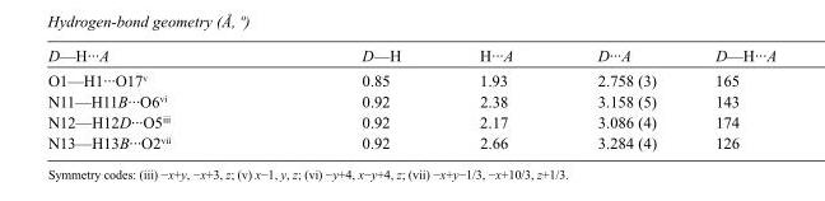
<table><tbody><tr><td>D—H···A</td><td>D—H</td><td>H···A</td><td>D···A</td><td>D—H···A</td></tr><tr><td>O1—H1···O17<sup>v</sup></td><td>0.85</td><td>1.93</td><td>2.758 (3)</td><td>165</td></tr><tr><td>N11—H11B···O6<sup>vi</sup></td><td>0.92</td><td>2.38</td><td>3.158 (5)</td><td>143</td></tr><tr><td>N12—H12D···O5<sup>iii</sup></td><td>0.92</td><td>2.17</td><td>3.086 (4)</td><td>174</td></tr><tr><td>N13—H13B···O2<sup>vii</sup></td><td>0.92</td><td>2.66</td><td>3.284 (4)</td><td>126</td></tr></tbody></table>